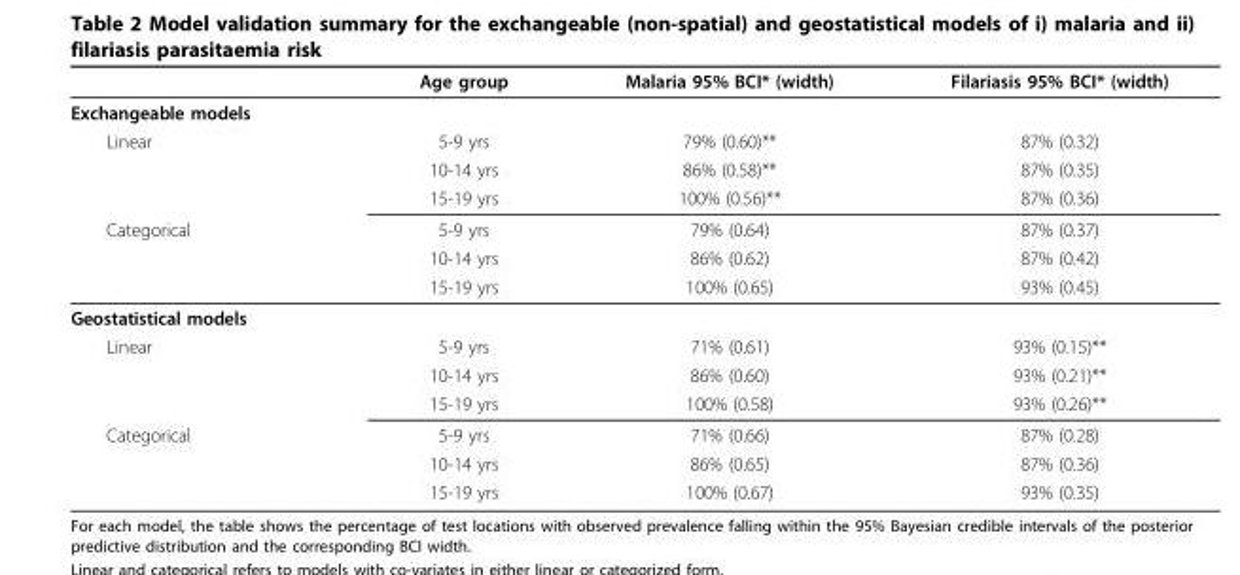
<table><thead><tr><td></td><td>Age group</td><td>Malaria 95% BCI* (width)</td><td>Filariasis 95% BCI* (width)</td></tr></thead><tbody><tr><td colspan="4">Exchangeable models</td></tr><tr><td rowspan="3">Linear</td><td>5-9 yrs</td><td>79% (0.60)**</td><td>87% (0.32)</td></tr><tr><td>10-14 yrs</td><td>86% (0.58)**</td><td>87% (0.35)</td></tr><tr><td>15-19 yrs</td><td>100% (0.56)**</td><td>87% (0.36)</td></tr><tr><td rowspan="3">Categorical</td><td>5-9 yrs</td><td>79% (0.64)</td><td>87% (0.37)</td></tr><tr><td>10-14 yrs</td><td>86% (0.62)</td><td>87% (0.42)</td></tr><tr><td>15-19 yrs</td><td>100% (0.65)</td><td>93% (0.45)</td></tr><tr><td colspan="4">Geostatistical models</td></tr><tr><td rowspan="3">Linear</td><td>5-9 yrs</td><td>71% (0.61)</td><td>93% (0.15)**</td></tr><tr><td>10-14 yrs</td><td>86% (0.60)</td><td>93% (0.21)**</td></tr><tr><td>15-19 yrs</td><td>100% (0.58)</td><td>93% (0.26)**</td></tr><tr><td rowspan="3">Categorical</td><td>5-9 yrs</td><td>71% (0.66)</td><td>87% (0.28)</td></tr><tr><td>10-14 yrs</td><td>86% (0.65)</td><td>87% (0.36)</td></tr><tr><td>15-19 yrs</td><td>100% (0.67)</td><td>93% (0.35)</td></tr></tbody></table>